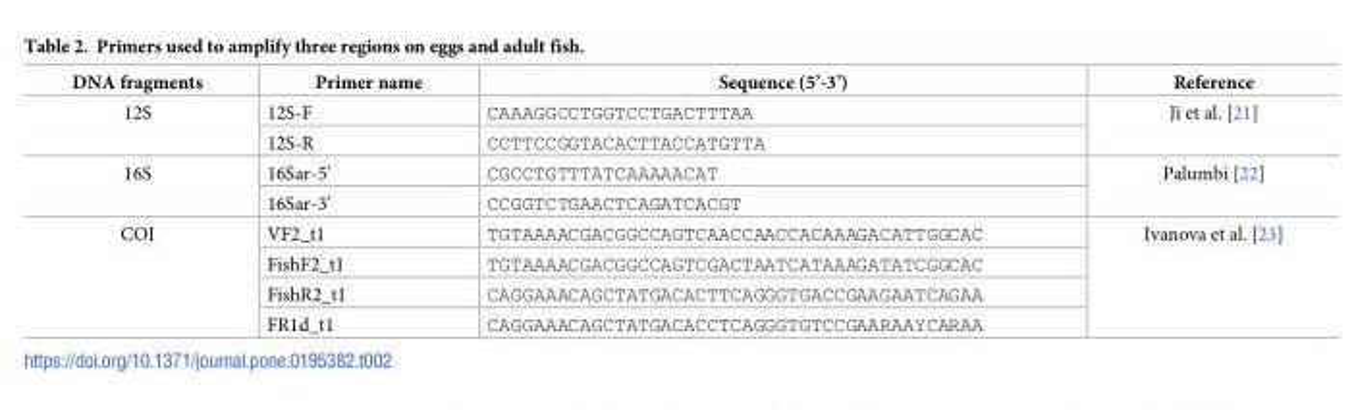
<table><thead><tr><td>DNA fragments</td><td>Primer name</td><td>Sequence (5’-3’)</td><td>Reference</td></tr></thead><tbody><tr><td rowspan="2">12S</td><td>12S-F</td><td>CAAAGGCCTGGTCCTGACTTTAA</td><td rowspan="2">Ji et al. [21]</td></tr><tr><td>12S-R</td><td>CCTTCCGGTACACTTACCATGTTA</td></tr><tr><td rowspan="2">16S</td><td>16Sar-5’</td><td>CGCCTGTTTATCAAAAACAT</td><td rowspan="2">Palumbi [22]</td></tr><tr><td>16Sar-3’</td><td>CCGGTCTGAACTCAGATCACGT</td></tr><tr><td rowspan="4">COI</td><td>VF2_t1</td><td>TGTAAAACGACGGCCAGTCAACCAACCACAAAGACATTGGCAC</td><td rowspan="4">Ivanova et al. [23]</td></tr><tr><td>FishF2_t1</td><td>TGTAAAACGACGGCCAGTCGACTAATCATAAAGATATCGGCAC</td></tr><tr><td>FishR2_t1</td><td>CAGGAAACAGCTATGACACTTCAGGGTGACCGAAGAATCAGAA</td></tr><tr><td>FR1d_t1</td><td>CAGGAAACAGCTATGACACCTCAGGGTGTCCGAARAAYCARAA</td></tr></tbody></table>